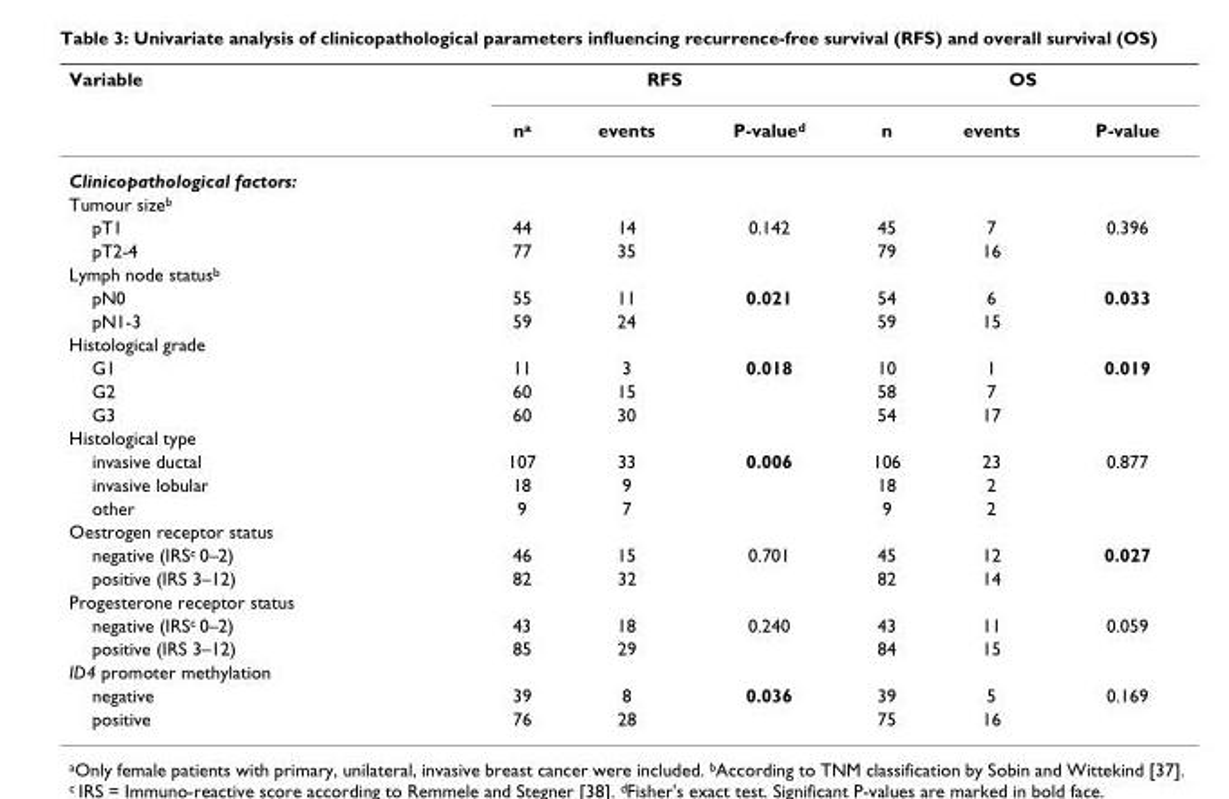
<table><thead><tr><td rowspan="2">Variable</td><td colspan="3">RFS</td><td colspan="3">OS</td></tr><tr><td>n<sup>a</sup></td><td>events</td><td>P-value<sup>d</sup></td><td>n</td><td>events</td><td>P-value</td></tr></thead><tbody><tr><td colspan="7">Clinicopathological factors:</td></tr><tr><td colspan="7">Tumour size<sup>b</sup></td></tr><tr><td>pT1</td><td>44</td><td>14</td><td>0.142</td><td>45</td><td>7</td><td>0.396</td></tr><tr><td>pT2-4</td><td>77</td><td>35</td><td></td><td>79</td><td>16</td><td></td></tr><tr><td colspan="7">Lymph node status<sup>b</sup></td></tr><tr><td>pN0</td><td>55</td><td>11</td><td>0.021</td><td>54</td><td>6</td><td>0.033</td></tr><tr><td>pN1-3</td><td>59</td><td>24</td><td></td><td>59</td><td>15</td><td></td></tr><tr><td colspan="7">Histological grade</td></tr><tr><td>G1</td><td>11</td><td>3</td><td>0.018</td><td>10</td><td>1</td><td>0.019</td></tr><tr><td>G2</td><td>60</td><td>15</td><td></td><td>58</td><td>7</td><td></td></tr><tr><td>G3</td><td>60</td><td>30</td><td></td><td>54</td><td>17</td><td></td></tr><tr><td colspan="7">Histological type</td></tr><tr><td>invasive ductal</td><td>107</td><td>33</td><td>0.006</td><td>106</td><td>23</td><td>0.877</td></tr><tr><td>invasive lobular</td><td>18</td><td>9</td><td></td><td>18</td><td>2</td><td></td></tr><tr><td>other</td><td>9</td><td>7</td><td></td><td>9</td><td>2</td><td></td></tr><tr><td colspan="7">Oestrogen receptor status</td></tr><tr><td>negative (IRS<sup>c</sup> 0–2)</td><td>46</td><td>15</td><td>0.701</td><td>45</td><td>12</td><td>0.027</td></tr><tr><td>positive (IRS 3–12)</td><td>82</td><td>32</td><td></td><td>82</td><td>14</td><td></td></tr><tr><td colspan="7">Progesterone receptor status</td></tr><tr><td>negative (IRS<sup>c</sup> 0–2)</td><td>43</td><td>18</td><td>0.240</td><td>43</td><td>11</td><td>0.059</td></tr><tr><td>positive (IRS 3–12)</td><td>85</td><td>29</td><td></td><td>84</td><td>15</td><td></td></tr><tr><td colspan="7">ID4 promoter methylation</td></tr><tr><td>negative</td><td>39</td><td>8</td><td>0.036</td><td>39</td><td>5</td><td>0.169</td></tr><tr><td>positive</td><td>76</td><td>28</td><td></td><td>75</td><td>16</td><td></td></tr></tbody></table>